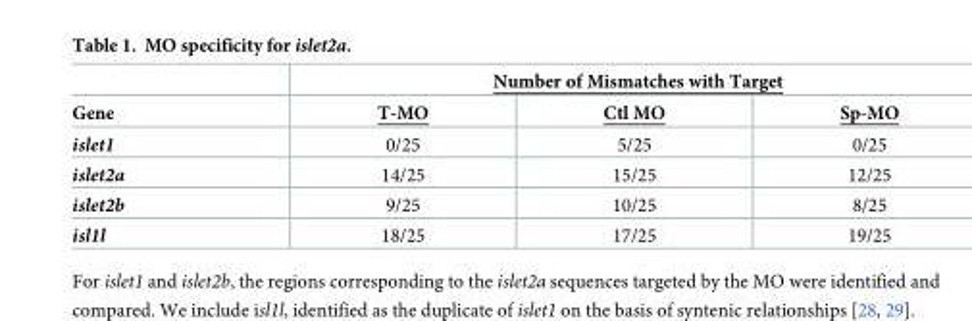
<table><thead><tr><td rowspan="2">Gene</td><td colspan="3">Number of Mismatches with Target</td></tr><tr><td>T-MO</td><td>Ctl MO</td><td>Sp-MO</td></tr></thead><tbody><tr><td>islet1</td><td>0/25</td><td>5/25</td><td>0/25</td></tr><tr><td>islet2a</td><td>14/25</td><td>15/25</td><td>12/25</td></tr><tr><td>islet2b</td><td>9/25</td><td>10/25</td><td>8/25</td></tr><tr><td>isl1l</td><td>18/25</td><td>17/25</td><td>19/25</td></tr></tbody></table>